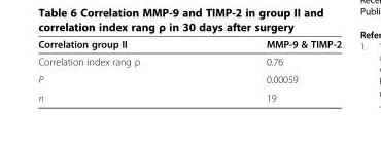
<table><thead><tr><td>Correlation group II</td><td>MMP-9 &amp; TIMP-2</td></tr></thead><tbody><tr><td>Correlation index rang ρ</td><td>0.76</td></tr><tr><td>P</td><td>0.00059</td></tr><tr><td>n</td><td>19</td></tr></tbody></table>